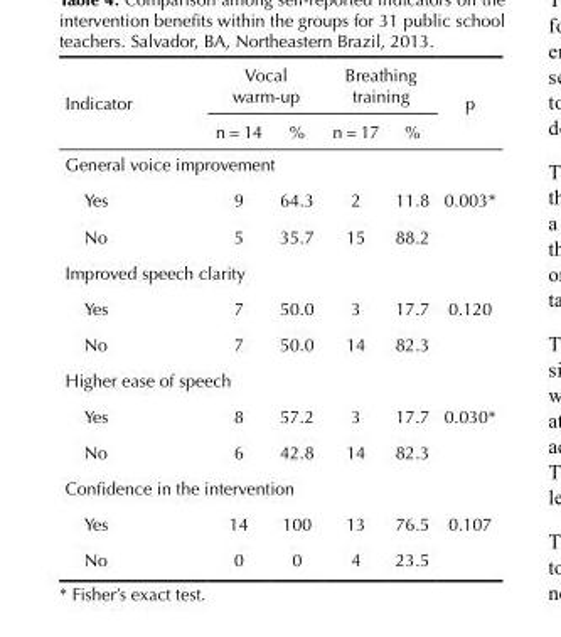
<table><thead><tr><td rowspan="2">Indicator</td><td colspan="2">Vocal warm-up</td><td colspan="2">Breathing training</td><td rowspan="2">p</td></tr><tr><td>n = 14</td><td>%</td><td>n = 17</td><td>%</td></tr></thead><tbody><tr><td colspan="6">General voice improvement</td></tr><tr><td>Yes</td><td>9</td><td>64.3</td><td>2</td><td>11.8</td><td>0.003*</td></tr><tr><td>No</td><td>5</td><td>35.7</td><td>15</td><td>88.2</td><td></td></tr><tr><td colspan="6">Improved speech clarity</td></tr><tr><td>Yes</td><td>7</td><td>50.0</td><td>3</td><td>17.7</td><td>0.120</td></tr><tr><td>No</td><td>7</td><td>50.0</td><td>14</td><td>82.3</td><td></td></tr><tr><td colspan="6">Higher ease of speech</td></tr><tr><td>Yes</td><td>8</td><td>57.2</td><td>3</td><td>17.7</td><td>0.030*</td></tr><tr><td>No</td><td>6</td><td>42.8</td><td>14</td><td>82.3</td><td></td></tr><tr><td colspan="6">Confidence in the intervention</td></tr><tr><td>Yes</td><td>14</td><td>100</td><td>13</td><td>76.5</td><td>0.107</td></tr><tr><td>No</td><td>0</td><td>0</td><td>4</td><td>23.5</td><td></td></tr></tbody></table>